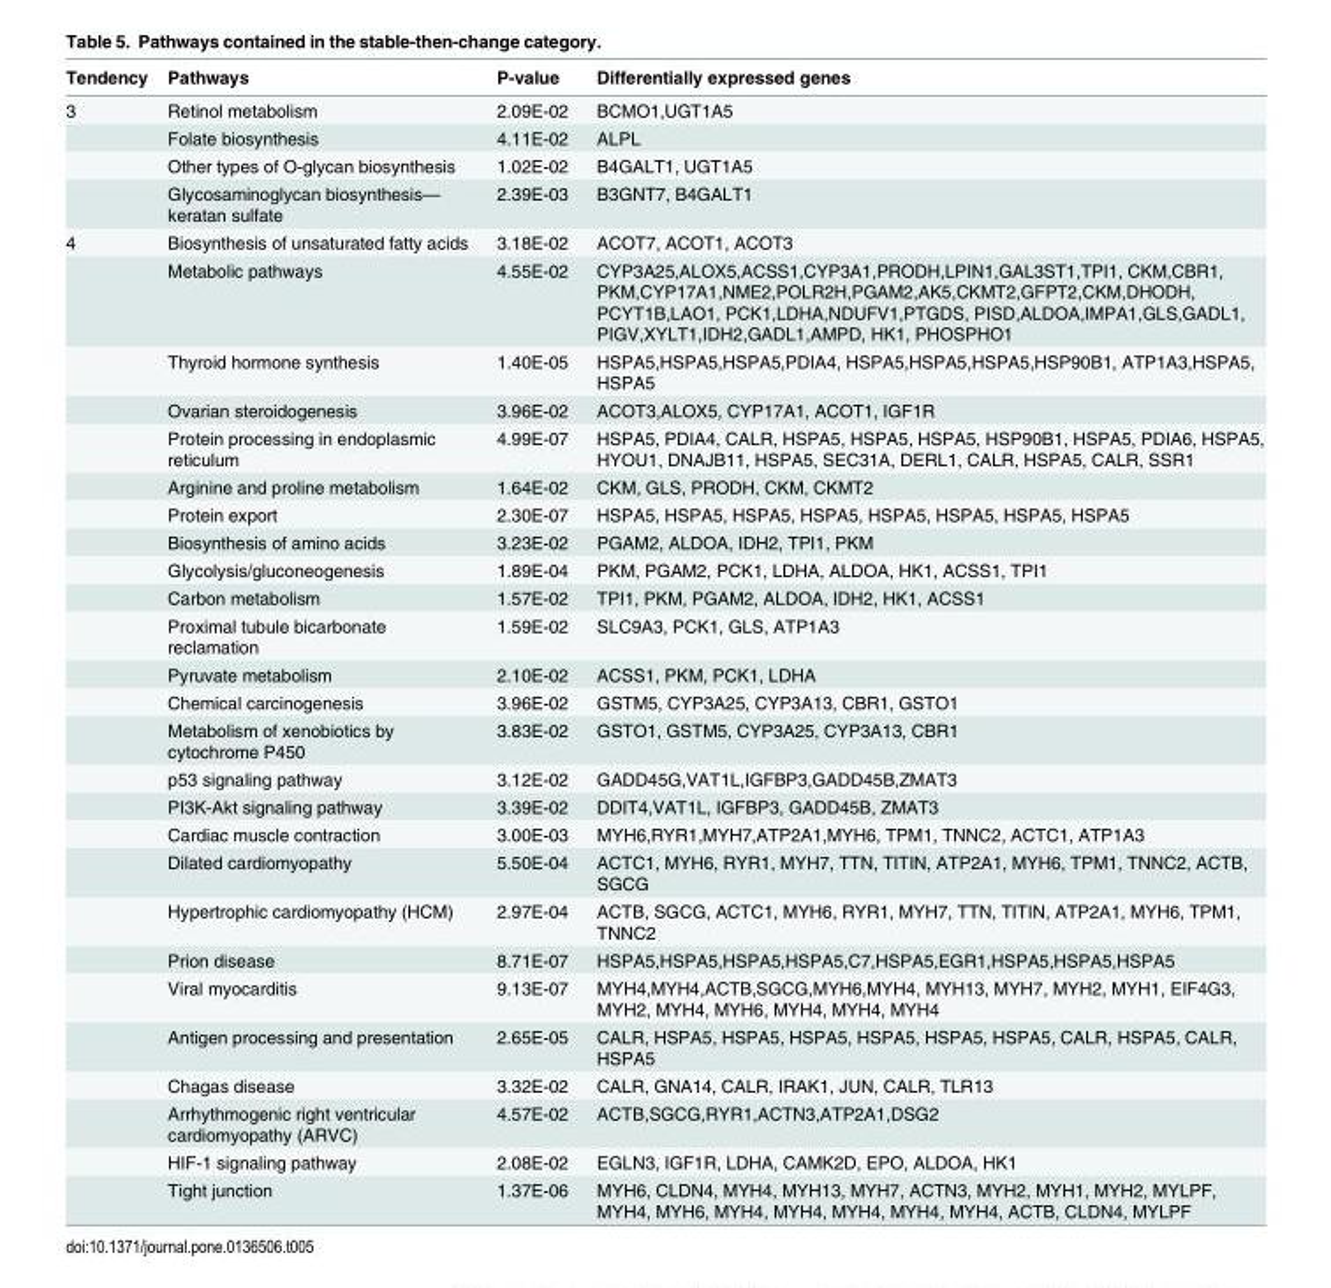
<table><thead><tr><td>Tendency</td><td>Pathways</td><td>P-value</td><td>Differentially expressed genes</td></tr></thead><tbody><tr><td rowspan="4">3</td><td>Retinol metabolism</td><td>2.09E-02</td><td>BCMO1,UGT1A5</td></tr><tr><td>Folate biosynthesis</td><td>4.11E-02</td><td>ALPL</td></tr><tr><td>Other types of O-glycan biosynthesis</td><td>1.02E-02</td><td>B4GALT1, UGT1A5</td></tr><tr><td>Glycosaminoglycan biosynthesis— keratan sulfate</td><td>2.39E-03</td><td>B3GNT7, B4GALT1</td></tr><tr><td rowspan="26">4</td><td>Biosynthesis of unsaturated fatty acids</td><td>3.18E-02</td><td>ACOT7, ACOT1, ACOT3</td></tr><tr><td>Metabolic pathways</td><td>4.55E-02</td><td>CYP3A25,ALOX5,ACSS1,CYP3A1,PRODH,LPIN1,GAL3ST1,TPI1, CKM,CBR1, PKM,CYP17A1,NME2,POLR2H,PGAM2,AK5,CKMT2,GFPT2,CKM,DHODH, PCYT1B,LAO1, PCK1,LDHA,NDUFV1,PTGDS, PISD,ALDOA,IMPA1,GLS,GADL1, PIGV,XYLT1,IDH2,GADL1,AMPD, HK1, PHOSPHO1</td></tr><tr><td>Thyroid hormone synthesis</td><td>1.40E-05</td><td>HSPA5,HSPA5,HSPA5,PDIA4, HSPA5,HSPA5,HSPA5,HSP90B1, ATP1A3,HSPA5, HSPA5</td></tr><tr><td>Ovarian steroidogenesis</td><td>3.96E-02</td><td>ACOT3,ALOX5, CYP17A1, ACOT1, IGF1R</td></tr><tr><td>Protein processing in endoplasmic reticulum</td><td>4.99E-07</td><td>HSPA5, PDIA4, CALR, HSPA5, HSPA5, HSPA5, HSP90B1, HSPA5, PDIA6, HSPA5, HYOU1, DNAJB11, HSPA5, SEC31A, DERL1, CALR, HSPA5, CALR, SSR1</td></tr><tr><td>Arginine and proline metabolism</td><td>1.64E-02</td><td>CKM, GLS, PRODH, CKM, CKMT2</td></tr><tr><td>Protein export</td><td>2.30E-07</td><td>HSPA5, HSPA5, HSPA5, HSPA5, HSPA5, HSPA5, HSPA5, HSPA5</td></tr><tr><td>Biosynthesis of amino acids</td><td>3.23E-02</td><td>PGAM2, ALDOA, IDH2, TPI1, PKM</td></tr><tr><td>Glycolysis/gluconeogenesis</td><td>1.89E-04</td><td>PKM, PGAM2, PCK1, LDHA, ALDOA, HK1, ACSS1, TPI1</td></tr><tr><td>Carbon metabolism</td><td>1.57E-02</td><td>TPI1, PKM, PGAM2, ALDOA, IDH2, HK1, ACSS1</td></tr><tr><td>Proximal tubule bicarbonate reclamation</td><td>1.59E-02</td><td>SLC9A3, PCK1, GLS, ATP1A3</td></tr><tr><td>Pyruvate metabolism</td><td>2.10E-02</td><td>ACSS1, PKM, PCK1, LDHA</td></tr><tr><td>Chemical carcinogenesis</td><td>3.96E-02</td><td>GSTM5, CYP3A25, CYP3A13, CBR1, GSTO1</td></tr><tr><td>Metabolism of xenobiotics by cytochrome P450</td><td>3.83E-02</td><td>GSTO1, GSTM5, CYP3A25, CYP3A13, CBR1</td></tr><tr><td>p53 signaling pathway</td><td>3.12E-02</td><td>GADD45G,VAT1L,IGFBP3,GADD45B,ZMAT3</td></tr><tr><td>PI3K-Akt signaling pathway</td><td>3.39E-02</td><td>DDIT4,VAT1L, IGFBP3, GADD45B, ZMAT3</td></tr><tr><td>Cardiac muscle contraction</td><td>3.00E-03</td><td>MYH6,RYR1,MYH7,ATP2A1,MYH6, TPM1, TNNC2, ACTC1, ATP1A3</td></tr><tr><td>Dilated cardiomyopathy</td><td>5.50E-04</td><td>ACTC1, MYH6, RYR1, MYH7, TTN, TITIN, ATP2A1, MYH6, TPM1, TNNC2, ACTB, SGCG</td></tr><tr><td>Hypertrophic cardiomyopathy (HCM)</td><td>2.97E-04</td><td>ACTB, SGCG, ACTC1, MYH6, RYR1, MYH7, TTN, TITIN, ATP2A1, MYH6, TPM1, TNNC2</td></tr><tr><td>Prion disease</td><td>8.71E-07</td><td>HSPA5,HSPA5,HSPA5,HSPA5,C7,HSPA5,EGR1,HSPA5,HSPA5,HSPA5</td></tr><tr><td>Viral myocarditis</td><td>9.13E-07</td><td>MYH4,MYH4,ACTB,SGCG,MYH6,MYH4, MYH13, MYH7, MYH2, MYH1, EIF4G3, MYH2, MYH4, MYH6, MYH4, MYH4, MYH4</td></tr><tr><td>Antigen processing and presentation</td><td>2.65E-05</td><td>CALR, HSPA5, HSPA5, HSPA5, HSPA5, HSPA5, HSPA5, CALR, HSPA5, CALR, HSPA5</td></tr><tr><td>Chagas disease</td><td>3.32E-02</td><td>CALR, GNA14, CALR, IRAK1, JUN, CALR, TLR13</td></tr><tr><td>Arrhythmogenic right ventricular cardiomyopathy (ARVC)</td><td>4.57E-02</td><td>ACTB,SGCG,RYR1,ACTN3,ATP2A1,DSG2</td></tr><tr><td>HIF-1 signaling pathway</td><td>2.08E-02</td><td>EGLN3, IGF1R, LDHA, CAMK2D, EPO, ALDOA, HK1</td></tr><tr><td>Tight junction</td><td>1.37E-06</td><td>MYH6, CLDN4, MYH4, MYH13, MYH7, ACTN3, MYH2, MYH1, MYH2, MYLPF, MYH4, MYH6, MYH4, MYH4, MYH4, MYH4, MYH4, ACTB, CLDN4, MYLPF</td></tr></tbody></table>